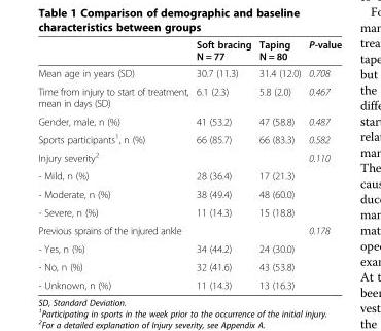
<table><thead><tr><td></td><td>Soft bracing N = 77</td><td>Taping N = 80</td><td>P-value</td></tr></thead><tbody><tr><td>Mean age in years (SD)</td><td>30.7 (11.3)</td><td>31.4 (12.0)</td><td>0.708</td></tr><tr><td>Time from injury to start of treatment, mean in days (SD)</td><td>6.1 (2.3)</td><td>5.8 (2.0)</td><td>0.467</td></tr><tr><td>Gender, male, n (%)</td><td>41 (53.2)</td><td>47 (58.8)</td><td>0.487</td></tr><tr><td>Sports participants<sup>1</sup>, n (%)</td><td>66 (85.7)</td><td>66 (83.3)</td><td>0.582</td></tr><tr><td>Injury severity<sup>2</sup></td><td></td><td></td><td>0.110</td></tr><tr><td>- Mild, n (%)</td><td>28 (36.4)</td><td>17 (21.3)</td><td></td></tr><tr><td>- Moderate, n (%)</td><td>38 (49.4)</td><td>48 (60.0)</td><td></td></tr><tr><td>- Severe, n (%)</td><td>11 (14.3)</td><td>15 (18.8)</td><td></td></tr><tr><td>Previous sprains of the injured ankle</td><td></td><td></td><td>0.178</td></tr><tr><td>- Yes, n (%)</td><td>34 (44.2)</td><td>24 (30.0)</td><td></td></tr><tr><td>- No, n (%)</td><td>32 (41.6)</td><td>43 (53.8)</td><td></td></tr><tr><td>- Unknown, n (%)</td><td>11 (14.3)</td><td>13 (16.3)</td><td></td></tr></tbody></table>